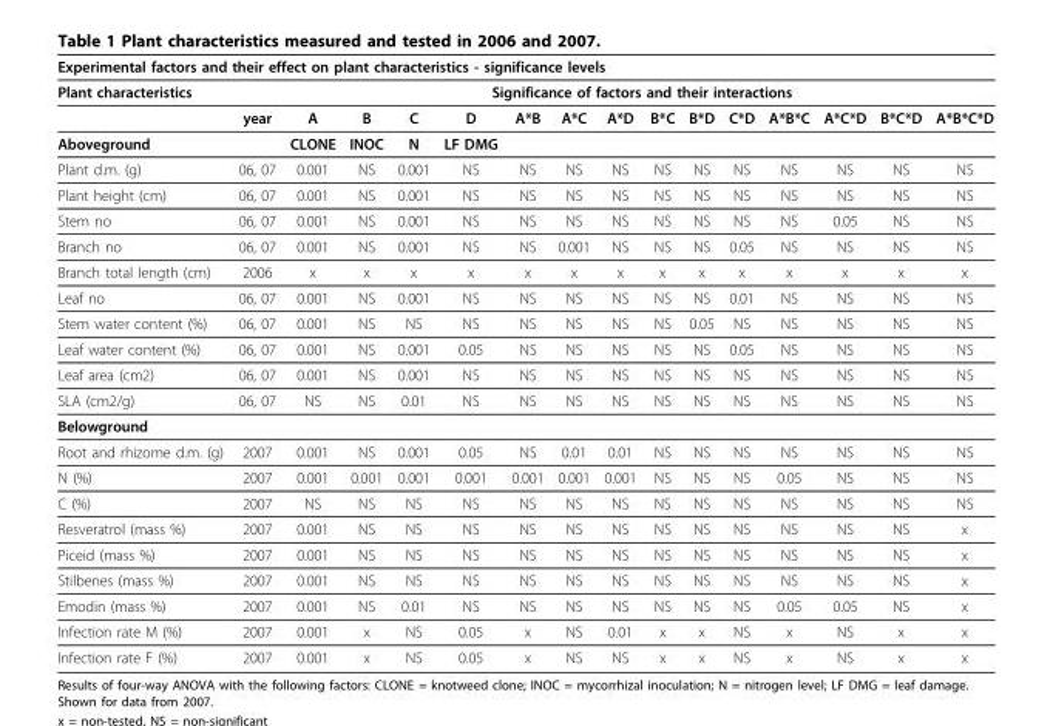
<table><thead><tr><td colspan="16">Experimental factors and their effect on plant characteristics - significance levels</td></tr><tr><td colspan="2">Plant characteristics</td><td colspan="14">Significance of factors and their interactions</td></tr><tr><td></td><td>year</td><td>A</td><td>B</td><td>C</td><td>D</td><td>A*B</td><td>A*C</td><td>A*D</td><td>B*C</td><td>B*D</td><td>C*D</td><td>A*B*C</td><td>A*C*D</td><td>B*C*D</td><td>A*B*C*D</td></tr></thead><tbody><tr><td>Aboveground</td><td></td><td>CLONE</td><td>INOC</td><td>N</td><td>LF DMG</td><td></td><td></td><td></td><td></td><td></td><td></td><td></td><td></td><td></td><td></td></tr><tr><td>Plant d.m. (g)</td><td>06, 07</td><td>0.001</td><td>NS</td><td>0.001</td><td>NS</td><td>NS</td><td>NS</td><td>NS</td><td>NS</td><td>NS</td><td>NS</td><td>NS</td><td>NS</td><td>NS</td><td>NS</td></tr><tr><td>Plant height (cm)</td><td>06, 07</td><td>0.001</td><td>NS</td><td>0.001</td><td>NS</td><td>NS</td><td>NS</td><td>NS</td><td>NS</td><td>NS</td><td>NS</td><td>NS</td><td>NS</td><td>NS</td><td>NS</td></tr><tr><td>Stem no</td><td>06, 07</td><td>0.001</td><td>NS</td><td>0.001</td><td>NS</td><td>NS</td><td>NS</td><td>NS</td><td>NS</td><td>NS</td><td>NS</td><td>NS</td><td>0.05</td><td>NS</td><td>NS</td></tr><tr><td>Branch no</td><td>06, 07</td><td>0.001</td><td>NS</td><td>0.001</td><td>NS</td><td>NS</td><td>0.001</td><td>NS</td><td>NS</td><td>NS</td><td>0.05</td><td>NS</td><td>NS</td><td>NS</td><td>NS</td></tr><tr><td>Branch total length (cm)</td><td>2006</td><td>x</td><td>x</td><td>x</td><td>x</td><td>x</td><td>x</td><td>x</td><td>x</td><td>x</td><td>x</td><td>x</td><td>x</td><td>x</td><td>x</td></tr><tr><td>Leaf no</td><td>06, 07</td><td>0.001</td><td>NS</td><td>0.001</td><td>NS</td><td>NS</td><td>NS</td><td>NS</td><td>NS</td><td>NS</td><td>0.01</td><td>NS</td><td>NS</td><td>NS</td><td>NS</td></tr><tr><td>Stem water content (%)</td><td>06, 07</td><td>0.001</td><td>NS</td><td>NS</td><td>NS</td><td>NS</td><td>NS</td><td>NS</td><td>NS</td><td>0.05</td><td>NS</td><td>NS</td><td>NS</td><td>NS</td><td>NS</td></tr><tr><td>Leaf water content (%)</td><td>06, 07</td><td>0.001</td><td>NS</td><td>0.001</td><td>0.05</td><td>NS</td><td>NS</td><td>NS</td><td>NS</td><td>NS</td><td>0.05</td><td>NS</td><td>NS</td><td>NS</td><td>NS</td></tr><tr><td>Leaf area (cm2)</td><td>06, 07</td><td>0.001</td><td>NS</td><td>0.001</td><td>NS</td><td>NS</td><td>NS</td><td>NS</td><td>NS</td><td>NS</td><td>NS</td><td>NS</td><td>NS</td><td>NS</td><td>NS</td></tr><tr><td>SLA (cm2/g)</td><td>06, 07</td><td>NS</td><td>NS</td><td>0.01</td><td>NS</td><td>NS</td><td>NS</td><td>NS</td><td>NS</td><td>NS</td><td>NS</td><td>NS</td><td>NS</td><td>NS</td><td>NS</td></tr><tr><td colspan="16">Belowground</td></tr><tr><td>Root and rhizome d.m. (g)</td><td>2007</td><td>0.001</td><td>NS</td><td>0.001</td><td>0.05</td><td>NS</td><td>0.01</td><td>0.01</td><td>NS</td><td>NS</td><td>NS</td><td>NS</td><td>NS</td><td>NS</td><td>NS</td></tr><tr><td>N (%)</td><td>2007</td><td>0.001</td><td>0.001</td><td>0.001</td><td>0.001</td><td>0.001</td><td>0.001</td><td>0.001</td><td>NS</td><td>NS</td><td>NS</td><td>0.05</td><td>NS</td><td>NS</td><td>NS</td></tr><tr><td>C (%)</td><td>2007</td><td>NS</td><td>NS</td><td>NS</td><td>NS</td><td>NS</td><td>NS</td><td>NS</td><td>NS</td><td>NS</td><td>NS</td><td>NS</td><td>NS</td><td>NS</td><td>NS</td></tr><tr><td>Resveratrol (mass %)</td><td>2007</td><td>0.001</td><td>NS</td><td>NS</td><td>NS</td><td>NS</td><td>NS</td><td>NS</td><td>NS</td><td>NS</td><td>NS</td><td>NS</td><td>NS</td><td>NS</td><td>x</td></tr><tr><td>Piceid (mass %)</td><td>2007</td><td>0.001</td><td>NS</td><td>NS</td><td>NS</td><td>NS</td><td>NS</td><td>NS</td><td>NS</td><td>NS</td><td>NS</td><td>NS</td><td>NS</td><td>NS</td><td>x</td></tr><tr><td>Stilbenes (mass %)</td><td>2007</td><td>0.001</td><td>NS</td><td>NS</td><td>NS</td><td>NS</td><td>NS</td><td>NS</td><td>NS</td><td>NS</td><td>NS</td><td>NS</td><td>NS</td><td>NS</td><td>x</td></tr><tr><td>Emodin (mass %)</td><td>2007</td><td>0.001</td><td>NS</td><td>0.01</td><td>NS</td><td>NS</td><td>NS</td><td>NS</td><td>NS</td><td>NS</td><td>NS</td><td>0.05</td><td>0.05</td><td>NS</td><td>x</td></tr><tr><td>Infection rate M (%)</td><td>2007</td><td>0.001</td><td>x</td><td>NS</td><td>0.05</td><td>x</td><td>NS</td><td>0.01</td><td>x</td><td>x</td><td>NS</td><td>x</td><td>NS</td><td>x</td><td>x</td></tr><tr><td>Infection rate F (%)</td><td>2007</td><td>0.001</td><td>x</td><td>NS</td><td>0.05</td><td>x</td><td>NS</td><td>NS</td><td>x</td><td>x</td><td>NS</td><td>x</td><td>NS</td><td>x</td><td>x</td></tr></tbody></table>